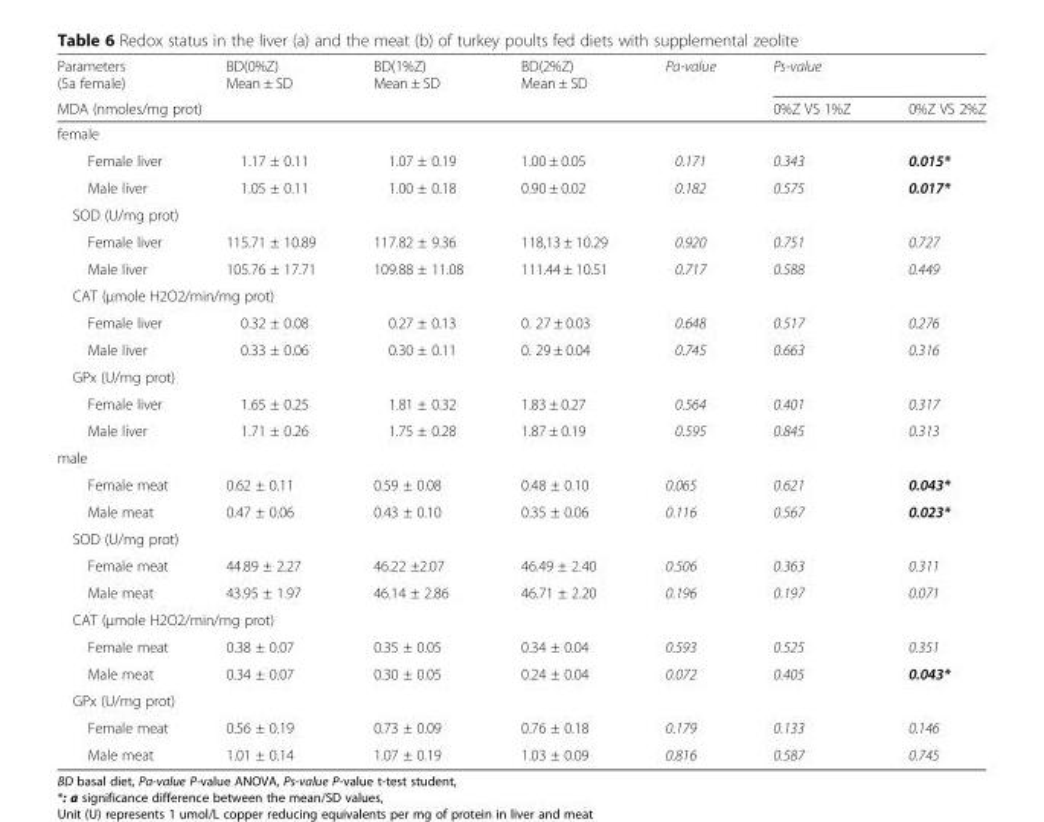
<table><thead><tr><td>Parameters (5a female)</td><td>BD(0%Z) Mean ± SD</td><td>BD(1%Z) Mean ± SD</td><td>BD(2%Z) Mean ± SD</td><td>Pa-value</td><td colspan="2">Ps-value</td></tr><tr><td colspan="5">MDA (nmoles/mg prot)</td><td>0%Z VS 1%Z</td><td>0%Z VS 2%Z</td></tr></thead><tbody><tr><td colspan="7">female</td></tr><tr><td>Female liver</td><td>1.17 ± 0.11</td><td>1.07 ± 0.19</td><td>1.00 ± 0.05</td><td>0.171</td><td>0.343</td><td>0.015*</td></tr><tr><td>Male liver</td><td>1.05 ± 0.11</td><td>1.00 ± 0.18</td><td>0.90 ± 0.02</td><td>0.182</td><td>0.575</td><td>0.017*</td></tr><tr><td colspan="7">SOD (U/mg prot)</td></tr><tr><td>Female liver</td><td>115.71 ± 10.89</td><td>117.82 ± 9.36</td><td>118,13 ± 10.29</td><td>0.920</td><td>0.751</td><td>0.727</td></tr><tr><td>Male liver</td><td>105.76 ± 17.71</td><td>109.88 ± 11.08</td><td>111.44 ± 10.51</td><td>0.717</td><td>0.588</td><td>0.449</td></tr><tr><td colspan="7">CAT (μmole H2O2/min/mg prot)</td></tr><tr><td>Female liver</td><td>0.32 ± 0.08</td><td>0.27 ± 0.13</td><td>0. 27 ± 0.03</td><td>0.648</td><td>0.517</td><td>0.276</td></tr><tr><td>Male liver</td><td>0.33 ± 0.06</td><td>0.30 ± 0.11</td><td>0. 29 ± 0.04</td><td>0.745</td><td>0.663</td><td>0.316</td></tr><tr><td colspan="7">GPx (U/mg prot)</td></tr><tr><td>Female liver</td><td>1.65 ± 0.25</td><td>1.81 ± 0.32</td><td>1.83 ± 0.27</td><td>0.564</td><td>0.401</td><td>0.317</td></tr><tr><td>Male liver</td><td>1.71 ± 0.26</td><td>1.75 ± 0.28</td><td>1.87 ± 0.19</td><td>0.595</td><td>0.845</td><td>0.313</td></tr><tr><td colspan="7">male</td></tr><tr><td>Female meat</td><td>0.62 ± 0.11</td><td>0.59 ± 0.08</td><td>0.48 ± 0.10</td><td>0.065</td><td>0.621</td><td>0.043*</td></tr><tr><td>Male meat</td><td>0.47 ± 0.06</td><td>0.43 ± 0.10</td><td>0.35 ± 0.06</td><td>0.116</td><td>0.567</td><td>0.023*</td></tr><tr><td colspan="7">SOD (U/mg prot)</td></tr><tr><td>Female meat</td><td>44.89 ± 2.27</td><td>46.22 ±2.07</td><td>46.49 ± 2.40</td><td>0.506</td><td>0.363</td><td>0.311</td></tr><tr><td>Male meat</td><td>43.95 ± 1.97</td><td>46.14 ± 2.86</td><td>46.71 ± 2.20</td><td>0.196</td><td>0.197</td><td>0.071</td></tr><tr><td colspan="7">CAT (μmole H2O2/min/mg prot)</td></tr><tr><td>Female meat</td><td>0.38 ± 0.07</td><td>0.35 ± 0.05</td><td>0.34 ± 0.04</td><td>0.593</td><td>0.525</td><td>0.351</td></tr><tr><td>Male meat</td><td>0.34 ± 0.07</td><td>0.30 ± 0.05</td><td>0.24 ± 0.04</td><td>0.072</td><td>0.405</td><td>0.043*</td></tr><tr><td colspan="7">GPx (U/mg prot)</td></tr><tr><td>Female meat</td><td>0.56 ± 0.19</td><td>0.73 ± 0.09</td><td>0.76 ± 0.18</td><td>0.179</td><td>0.133</td><td>0.146</td></tr><tr><td>Male meat</td><td>1.01 ± 0.14</td><td>1.07 ± 0.19</td><td>1.03 ± 0.09</td><td>0.816</td><td>0.587</td><td>0.745</td></tr></tbody></table>